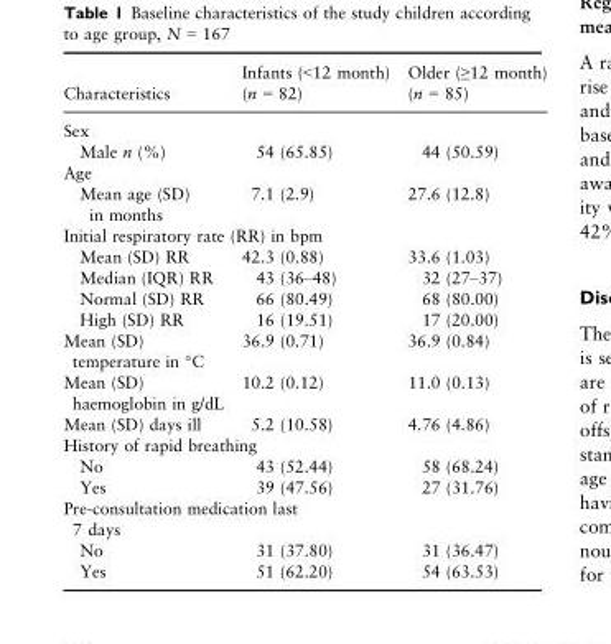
<table><thead><tr><td>Characteristics</td><td>Infants (&lt;12 month) (n = 82)</td><td>Older (≥12 month) (n = 85)</td></tr></thead><tbody><tr><td colspan="3">Sex</td></tr><tr><td>Male n (%)</td><td>54 (65.85)</td><td>44 (50.59)</td></tr><tr><td colspan="3">Age</td></tr><tr><td>Mean age (SD) in months</td><td>7.1 (2.9)</td><td>27.6 (12.8)</td></tr><tr><td colspan="3">Initial respiratory rate (RR) in bpm</td></tr><tr><td>Mean (SD) RR</td><td>42.3 (0.88)</td><td>33.6 (1.03)</td></tr><tr><td>Median (IQR) RR</td><td>43 (36–48)</td><td>32 (27–37)</td></tr><tr><td>Normal (SD) RR</td><td>66 (80.49)</td><td>68 (80.00)</td></tr><tr><td>High (SD) RR</td><td>16 (19.51)</td><td>17 (20.00)</td></tr><tr><td>Mean (SD) temperature in °C</td><td>36.9 (0.71)</td><td>36.9 (0.84)</td></tr><tr><td>Mean (SD) haemoglobin in g/dL</td><td>10.2 (0.12)</td><td>11.0 (0.13)</td></tr><tr><td>Mean (SD) days ill</td><td>5.2 (10.58)</td><td>4.76 (4.86)</td></tr><tr><td colspan="3">History of rapid breathing</td></tr><tr><td>No</td><td>43 (52.44)</td><td>58 (68.24)</td></tr><tr><td>Yes</td><td>39 (47.56)</td><td>27 (31.76)</td></tr><tr><td colspan="3">Pre-consultation medication last 7 days</td></tr><tr><td>No</td><td>31 (37.80)</td><td>31 (36.47)</td></tr><tr><td>Yes</td><td>51 (62.20)</td><td>54 (63.53)</td></tr></tbody></table>